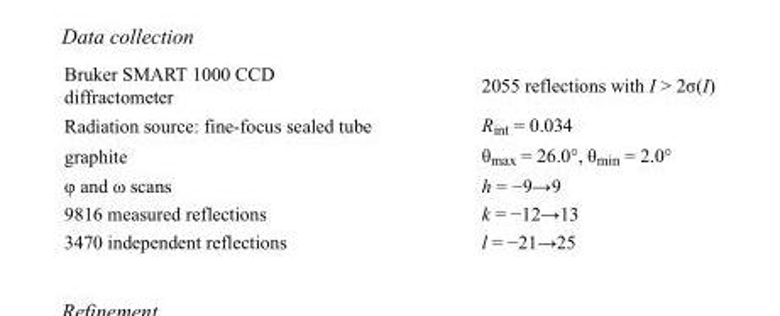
<table><tbody><tr><td>Bruker SMART 1000 CCD diffractometer</td><td>2055 reflections with I &gt; 2σ(I)</td></tr><tr><td>Radiation source: fine-focus sealed tube</td><td>R<sub>int</sub> = 0.034</td></tr><tr><td>graphite</td><td>θ<sub>max</sub> = 26.0°, θ<sub>min</sub> = 2.0°</td></tr><tr><td>φ and ω scans</td><td>h = −9→9</td></tr><tr><td>9816 measured reflections</td><td>k = −12→13</td></tr><tr><td>3470 independent reflections</td><td>l = −21→25</td></tr></tbody></table>